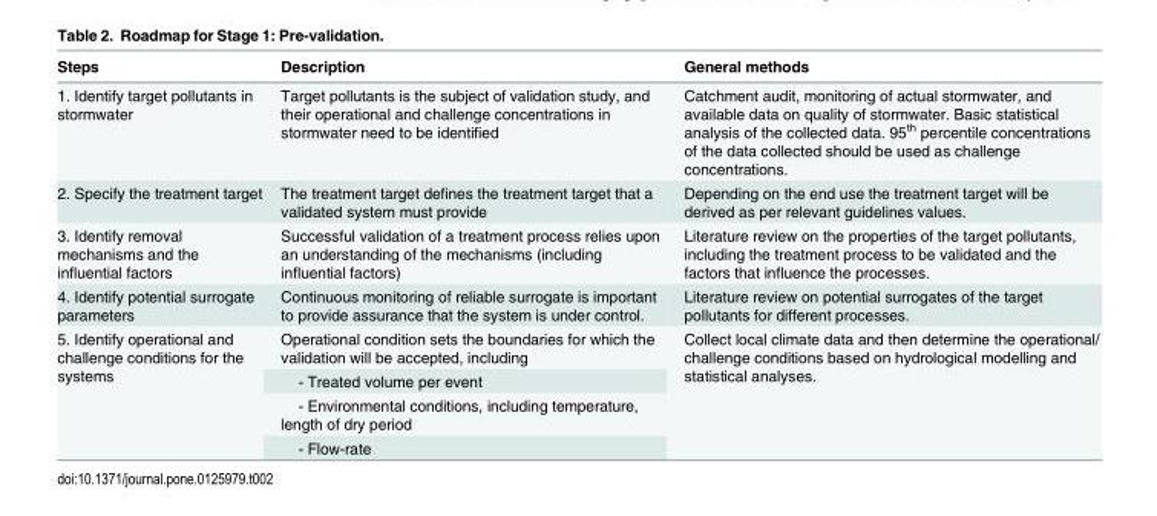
<table><thead><tr><td>Steps</td><td>Description</td><td>General methods</td></tr></thead><tbody><tr><td>1. Identify target pollutants in stormwater</td><td>Target pollutants is the subject of validation study, and their operational and challenge concentrations in stormwater need to be identified</td><td>Catchment audit, monitoring of actual stormwater, and available data on quality of stormwater. Basic statistical analysis of the collected data. 95<sup>th</sup> percentile concentrations of the data collected should be used as challenge concentrations.</td></tr><tr><td>2. Specify the treatment target</td><td>The treatment target defines the treatment target that a validated system must provide</td><td>Depending on the end use the treatment target will be derived as per relevant guidelines values.</td></tr><tr><td>3. Identify removal mechanisms and the influential factors</td><td>Successful validation of a treatment process relies upon an understanding of the mechanisms (including influential factors)</td><td>Literature review on the properties of the target pollutants, including the treatment process to be validated and the factors that influence the processes.</td></tr><tr><td>4. Identify potential surrogate parameters</td><td>Continuous monitoring of reliable surrogate is important to provide assurance that the system is under control.</td><td>Literature review on potential surrogates of the target pollutants for different processes.</td></tr><tr><td rowspan="4">5. Identify operational and challenge conditions for the systems</td><td>Operational condition sets the boundaries for which the validation will be accepted, including</td><td rowspan="4">Collect local climate data and then determine the operational/ challenge conditions based on hydrological modelling and statistical analyses.</td></tr><tr><td>- Treated volume per event</td></tr><tr><td>- Environmental conditions, including temperature, length of dry period</td></tr><tr><td>- Flow-rate</td></tr></tbody></table>